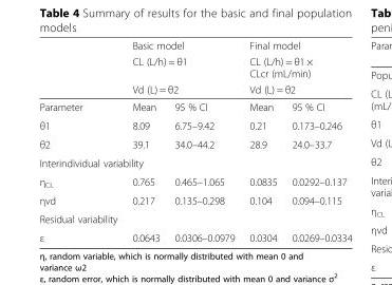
<table><thead><tr><td rowspan="4">Parameter</td><td rowspan="3" colspan="2">Basic model CL (L/h) = θ1 Vd (L) = θ2</td><td rowspan="3" colspan="2">Final model CL (L/h) = θ1 × CLcr (mL/min) Vd (L) = θ2</td></tr><tr></tr><tr></tr><tr><td>Mean</td><td>95 % CI</td><td>Mean</td><td>95 % CI</td></tr></thead><tbody><tr><td>θ1</td><td>8.09</td><td>6.75–9.42</td><td>0.21</td><td>0.173–0.246</td></tr><tr><td>θ2</td><td>39.1</td><td>34.0–44.2</td><td>28.9</td><td>24.0–33.7</td></tr><tr><td colspan="5">Interindividual variability</td></tr><tr><td>η<sub>CL</sub></td><td>0.765</td><td>0.465–1.065</td><td>0.0835</td><td>0.0292–0.137</td></tr><tr><td>ηvd</td><td>0.217</td><td>0.135–0.298</td><td>0.104</td><td>0.094–0.115</td></tr><tr><td colspan="5">Residual variability</td></tr><tr><td>ε</td><td>0.0643</td><td>0.0306–0.0979</td><td>0.0304</td><td>0.0269–0.0334</td></tr></tbody></table>